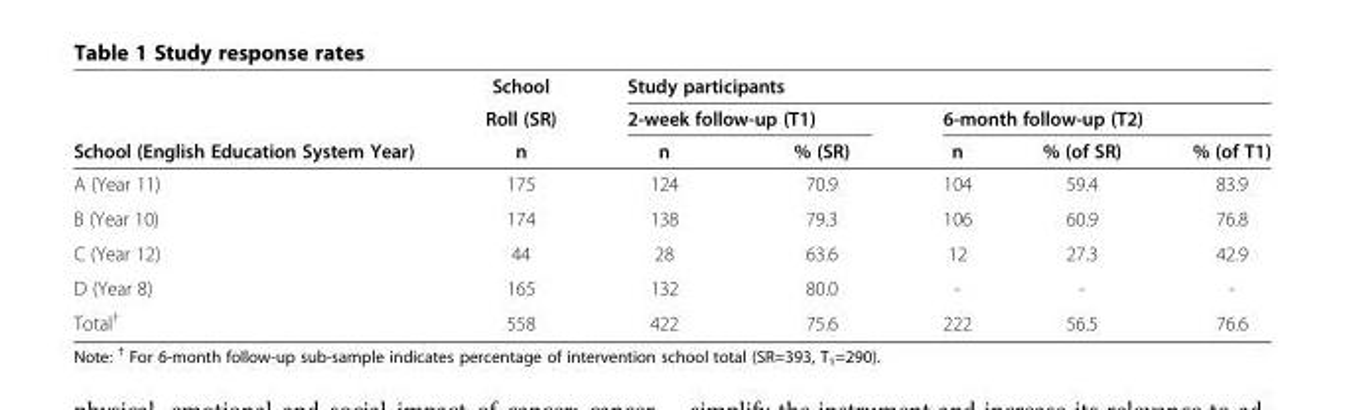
<table><thead><tr><td rowspan="3">School (English Education System Year)</td><td rowspan="3">School Roll (SR) n</td><td rowspan="2" colspan="2">Study participants 2-week follow-up (T1)</td><td></td><td></td><td></td></tr><tr><td colspan="3">6-month follow-up (T2)</td></tr><tr><td>n</td><td>% (SR)</td><td>n</td><td>% (of SR)</td><td>% (of T1)</td></tr></thead><tbody><tr><td>A (Year 11)</td><td>175</td><td>124</td><td>70.9</td><td>104</td><td>59.4</td><td>83.9</td></tr><tr><td>B (Year 10)</td><td>174</td><td>138</td><td>79.3</td><td>106</td><td>60.9</td><td>76.8</td></tr><tr><td>C (Year 12)</td><td>44</td><td>28</td><td>63.6</td><td>12</td><td>27.3</td><td>42.9</td></tr><tr><td>D (Year 8)</td><td>165</td><td>132</td><td>80.0</td><td>-</td><td>-</td><td>-</td></tr><tr><td>Total<sup>†</sup></td><td>558</td><td>422</td><td>75.6</td><td>222</td><td>56.5</td><td>76.6</td></tr></tbody></table>